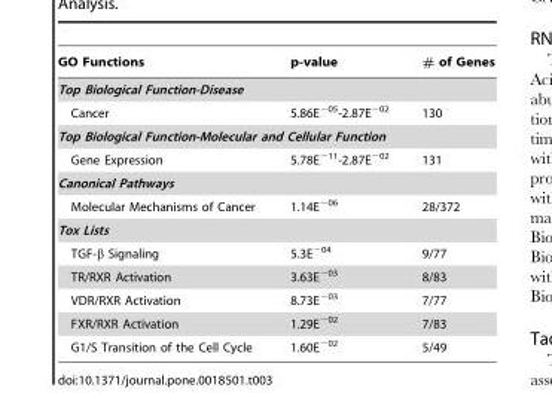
<table><thead><tr><td>GO Functions</td><td>p-value</td><td># of Genes</td></tr></thead><tbody><tr><td colspan="3">Top Biological Function-Disease</td></tr><tr><td>Cancer</td><td>5.86E<sup>−05</sup>-2.87E<sup>−02</sup></td><td>130</td></tr><tr><td colspan="3">Top Biological Function-Molecular and Cellular Function</td></tr><tr><td>Gene Expression</td><td>5.78E<sup>−11</sup>-2.87E<sup>−02</sup></td><td>131</td></tr><tr><td colspan="3">Canonical Pathways</td></tr><tr><td>Molecular Mechanisms of Cancer</td><td>1.14E<sup>−06</sup></td><td>28/372</td></tr><tr><td colspan="3">Tox Lists</td></tr><tr><td>TGF-β Signaling</td><td>5.3E<sup>−04</sup></td><td>9/77</td></tr><tr><td>TR/RXR Activation</td><td>3.63E<sup>−03</sup></td><td>8/83</td></tr><tr><td>VDR/RXR Activation</td><td>8.73E<sup>−03</sup></td><td>7/77</td></tr><tr><td>FXR/RXR Activation</td><td>1.29E<sup>−02</sup></td><td>7/83</td></tr><tr><td>G1/S Transition of the Cell Cycle</td><td>1.60E<sup>−02</sup></td><td>5/49</td></tr></tbody></table>